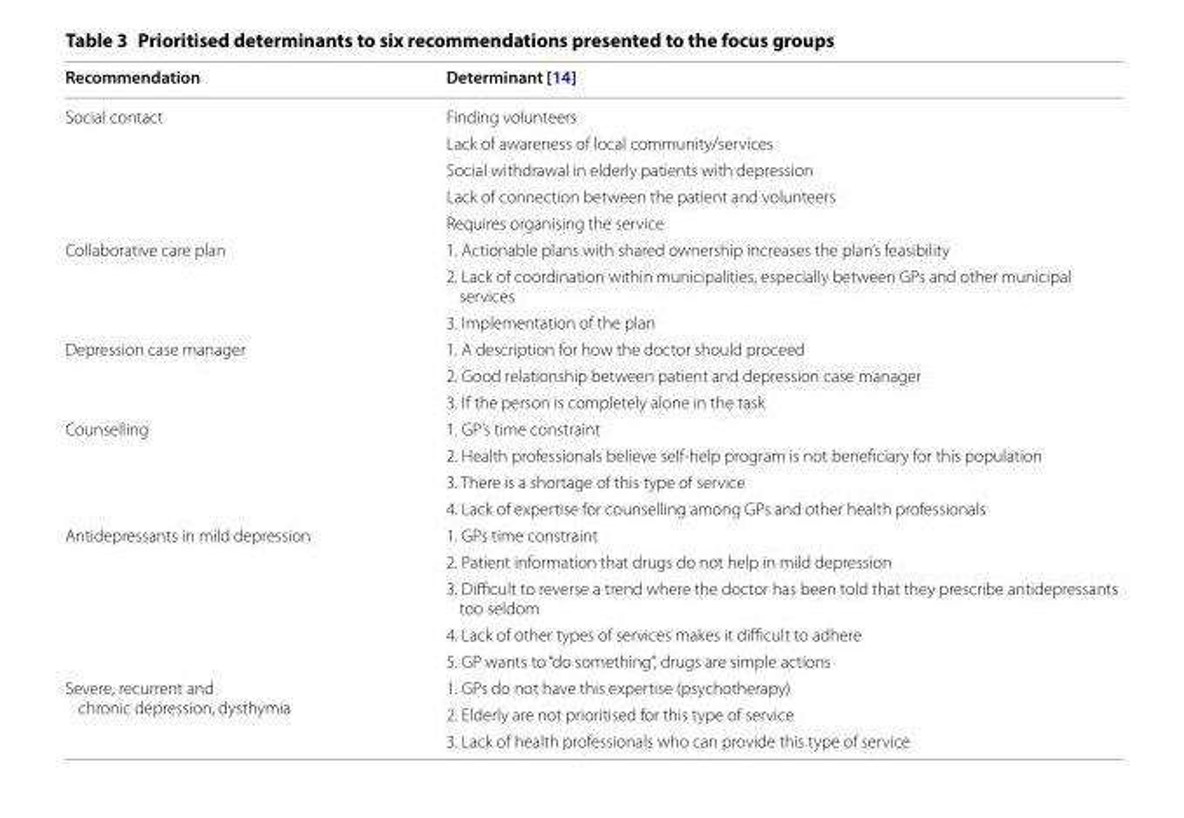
<table><thead><tr><td>Recommendation</td><td>Determinant [14]</td></tr></thead><tbody><tr><td rowspan="5">Social contact</td><td>Finding volunteers</td></tr><tr><td>Lack of awareness of local community/services</td></tr><tr><td>Social withdrawal in elderly patients with depression</td></tr><tr><td>Lack of connection between the patient and volunteers</td></tr><tr><td>Requires organising the service</td></tr><tr><td rowspan="3">Collaborative care plan</td><td>1. Actionable plans with shared ownership increases the plan’s feasibility</td></tr><tr><td>2. Lack of coordination within municipalities, especially between GPs and other municipal services</td></tr><tr><td>3. Implementation of the plan</td></tr><tr><td rowspan="3">Depression case manager</td><td>1. A description for how the doctor should proceed</td></tr><tr><td>2. Good relationship between patient and depression case manager</td></tr><tr><td>3. If the person is completely alone in the task</td></tr><tr><td rowspan="4">Counselling</td><td>1. GP’s time constraint</td></tr><tr><td>2. Health professionals believe self-help program is not beneficiary for this population</td></tr><tr><td>3. There is a shortage of this type of service</td></tr><tr><td>4. Lack of expertise for counselling among GPs and other health professionals</td></tr><tr><td rowspan="5">Antidepressants in mild depression</td><td>1. GPs time constraint</td></tr><tr><td>2. Patient information that drugs do not help in mild depression</td></tr><tr><td>3. Difficult to reverse a trend where the doctor has been told that they prescribe antidepressants too seldom</td></tr><tr><td>4. Lack of other types of services makes it difficult to adhere</td></tr><tr><td>5. GP wants to “do something”, drugs are simple actions</td></tr><tr><td rowspan="3">Severe, recurrent and chronic depression, dysthymia</td><td>1. GPs do not have this expertise (psychotherapy)</td></tr><tr><td>2. Elderly are not prioritised for this type of service</td></tr><tr><td>3. Lack of health professionals who can provide this type of service</td></tr></tbody></table>